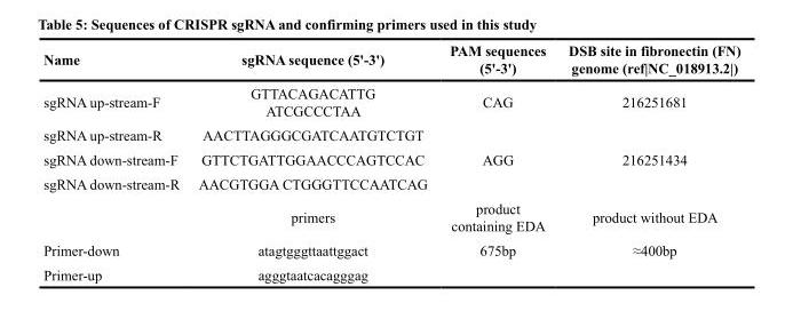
<table><thead><tr><td>Name</td><td>sgRNA sequence (5&#x27;-3&#x27;)</td><td>PAM sequences (5&#x27;-3&#x27;)</td><td>DSB site in fibronectin (FN) genome (ref|NC_018913.2|)</td></tr></thead><tbody><tr><td>sgRNA up-stream-F</td><td>GTTACAGACATTG ATCGCCCTAA</td><td>CAG</td><td>216251681</td></tr><tr><td>sgRNA up-stream-R</td><td>AACTTAGGGCGATCAATGTCTGT</td><td></td><td></td></tr><tr><td>sgRNA down-stream-F</td><td>GTTCTGATTGGAACCCAGTCCAC</td><td>AGG</td><td>216251434</td></tr><tr><td rowspan="2">sgRNA down-stream-R</td><td>AACGTGGA CTGGGTTCCAATCAG</td><td></td><td></td></tr><tr><td>primers</td><td>product containing EDA</td><td>product without EDA</td></tr><tr><td>Primer-down</td><td>atagtgggttaattggact</td><td>675bp</td><td>≈400bp</td></tr><tr><td>Primer-up</td><td>agggtaatcacagggag</td><td></td><td></td></tr></tbody></table>